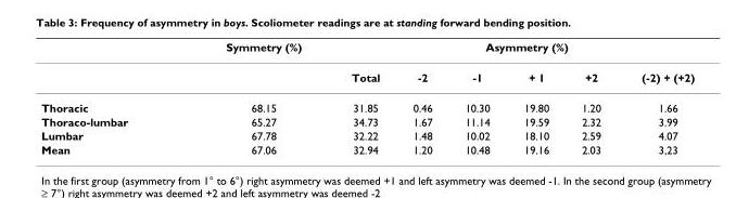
<table><thead><tr><td rowspan="2"></td><td rowspan="2">Symmetry (%)</td><td colspan="6">Asymmetry (%)</td></tr><tr><td>Total</td><td>-2</td><td>-1</td><td>+ 1</td><td>+2</td><td>(-2) + (+2)</td></tr></thead><tbody><tr><td>Thoracic</td><td>68.15</td><td>31.85</td><td>0.46</td><td>10.30</td><td>19.80</td><td>1.20</td><td>1.66</td></tr><tr><td>Thoraco-lumbar</td><td>65.27</td><td>34.73</td><td>1.67</td><td>11.14</td><td>19.59</td><td>2.32</td><td>3.99</td></tr><tr><td>Lumbar</td><td>67.78</td><td>32.22</td><td>1.48</td><td>10.02</td><td>18.10</td><td>2.59</td><td>4.07</td></tr><tr><td>Mean</td><td>67.06</td><td>32.94</td><td>1.20</td><td>10.48</td><td>19.16</td><td>2.03</td><td>3,23</td></tr></tbody></table>